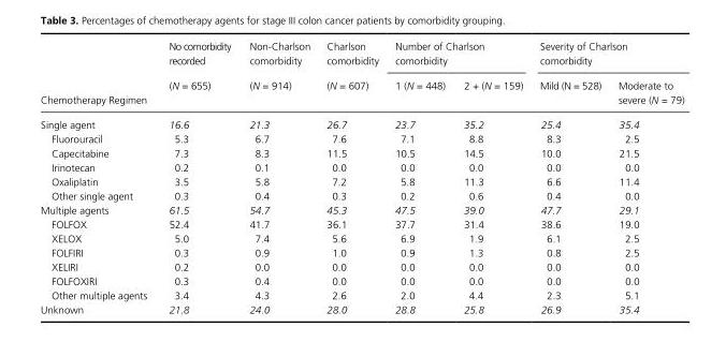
<table><thead><tr><td rowspan="2">Chemotherapy Regimen</td><td rowspan="2">No comorbidity recorded (N = 655)</td><td rowspan="2">Non- Charlson comorbidity (N = 914)</td><td rowspan="2">Charlson comorbidity (N = 607)</td><td colspan="2">Number of Charlson comorbidity</td><td colspan="2">Severity of Charlson comorbidity</td></tr><tr><td>1 (N = 448)</td><td>2 + (N = 159)</td><td>Mild (N = 528)</td><td>Moderate to severe (N = 79)</td></tr></thead><tbody><tr><td>Single agent</td><td>16.6</td><td>21.3</td><td>26.7</td><td>23.7</td><td>35.2</td><td>25.4</td><td>35.4</td></tr><tr><td>Fluorouracil</td><td>5.3</td><td>6.7</td><td>7.6</td><td>7.1</td><td>8.8</td><td>8.3</td><td>2.5</td></tr><tr><td>Capecitabine</td><td>7.3</td><td>8.3</td><td>11.5</td><td>10.5</td><td>14.5</td><td>10.0</td><td>21.5</td></tr><tr><td>Irinotecan</td><td>0.2</td><td>0.1</td><td>0.0</td><td>0.0</td><td>0.0</td><td>0.0</td><td>0.0</td></tr><tr><td>Oxaliplatin</td><td>3.5</td><td>5.8</td><td>7.2</td><td>5.8</td><td>11.3</td><td>6.6</td><td>11.4</td></tr><tr><td>Other single agent</td><td>0.3</td><td>0.4</td><td>0.3</td><td>0.2</td><td>0.6</td><td>0.4</td><td>0.0</td></tr><tr><td>Multiple agents</td><td>61.5</td><td>54.7</td><td>45.3</td><td>47.5</td><td>39.0</td><td>47.7</td><td>29.1</td></tr><tr><td>FOLFOX</td><td>52.4</td><td>41.7</td><td>36.1</td><td>37.7</td><td>31.4</td><td>38.6</td><td>19.0</td></tr><tr><td>XELOX</td><td>5.0</td><td>7.4</td><td>5.6</td><td>6.9</td><td>1.9</td><td>6.1</td><td>2.5</td></tr><tr><td>FOLFIRI</td><td>0.3</td><td>0.9</td><td>1.0</td><td>0.9</td><td>1.3</td><td>0.8</td><td>2.5</td></tr><tr><td>XELIRI</td><td>0.2</td><td>0.0</td><td>0.0</td><td>0.0</td><td>0.0</td><td>0.0</td><td>0.0</td></tr><tr><td>FOLFOXIRI</td><td>0.3</td><td>0.4</td><td>0.0</td><td>0.0</td><td>0.0</td><td>0.0</td><td>0.0</td></tr><tr><td>Other multiple agents</td><td>3.4</td><td>4.3</td><td>2.6</td><td>2.0</td><td>4.4</td><td>2.3</td><td>5.1</td></tr><tr><td>Unknown</td><td>21.8</td><td>24.0</td><td>28.0</td><td>28.8</td><td>25.8</td><td>26.9</td><td>35.4</td></tr></tbody></table>